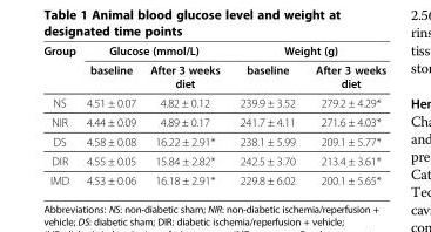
<table><thead><tr><td rowspan="2">Group</td><td colspan="2">Glucose (mmol/L)</td><td colspan="2">Weight (g)</td></tr><tr><td>baseline</td><td>After 3 weeks diet</td><td>baseline</td><td>After 3 weeks diet</td></tr></thead><tbody><tr><td>NS</td><td>4.51 ± 0.07</td><td>4.82 ± 0.12</td><td>239.9 ± 3.52</td><td>279.2 ± 4.29*</td></tr><tr><td>NIR</td><td>4.44 ± 0.09</td><td>4.89 ± 0.17</td><td>241.7 ± 4.11</td><td>271.6 ± 4.03*</td></tr><tr><td>DS</td><td>4.58 ± 0.08</td><td>16.22 ± 2.91*</td><td>238.1 ± 5.99</td><td>209.1 ± 5.77*</td></tr><tr><td>DIR</td><td>4.55 ± 0.05</td><td>15.84 ± 2.82*</td><td>242.5 ± 3.70</td><td>213.4 ± 3.61*</td></tr><tr><td>IMD</td><td>4.53 ± 0.06</td><td>16.18 ± 2.91*</td><td>229.8 ± 6.02</td><td>200.1 ± 5.65*</td></tr></tbody></table>